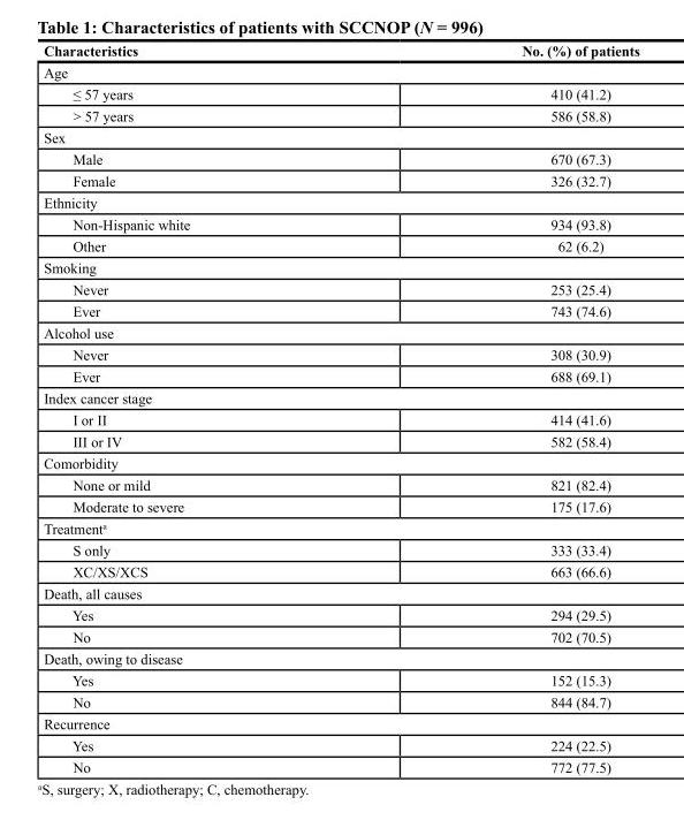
<table><thead><tr><td>Characteristics</td><td>No. (%) of patients</td></tr></thead><tbody><tr><td colspan="2">Age</td></tr><tr><td>≤ 57 years</td><td>410 (41.2)</td></tr><tr><td>&gt; 57 years</td><td>586 (58.8)</td></tr><tr><td colspan="2">Sex</td></tr><tr><td>Male</td><td>670 (67.3)</td></tr><tr><td>Female</td><td>326 (32.7)</td></tr><tr><td colspan="2">Ethnicity</td></tr><tr><td>Non-Hispanic white</td><td>934 (93.8)</td></tr><tr><td>Other</td><td>62 (6.2)</td></tr><tr><td colspan="2">Smoking</td></tr><tr><td>Never</td><td>253 (25.4)</td></tr><tr><td>Ever</td><td>743 (74.6)</td></tr><tr><td colspan="2">Alcohol use</td></tr><tr><td>Never</td><td>308 (30.9)</td></tr><tr><td>Ever</td><td>688 (69.1)</td></tr><tr><td colspan="2">Index cancer stage</td></tr><tr><td>I or II</td><td>414 (41.6)</td></tr><tr><td>III or IV</td><td>582 (58.4)</td></tr><tr><td colspan="2">Comorbidity</td></tr><tr><td>None or mild</td><td>821 (82.4)</td></tr><tr><td>Moderate to severe</td><td>175 (17.6)</td></tr><tr><td colspan="2">Treatment<sup>a</sup></td></tr><tr><td>S only</td><td>333 (33.4)</td></tr><tr><td>XC/XS/XCS</td><td>663 (66.6)</td></tr><tr><td colspan="2">Death, all causes</td></tr><tr><td>Yes</td><td>294 (29.5)</td></tr><tr><td>No</td><td>702 (70.5)</td></tr><tr><td colspan="2">Death, owing to disease</td></tr><tr><td>Yes</td><td>152 (15.3)</td></tr><tr><td>No</td><td>844 (84.7)</td></tr><tr><td colspan="2">Recurrence</td></tr><tr><td>Yes</td><td>224 (22.5)</td></tr><tr><td>No</td><td>772 (77.5)</td></tr></tbody></table>